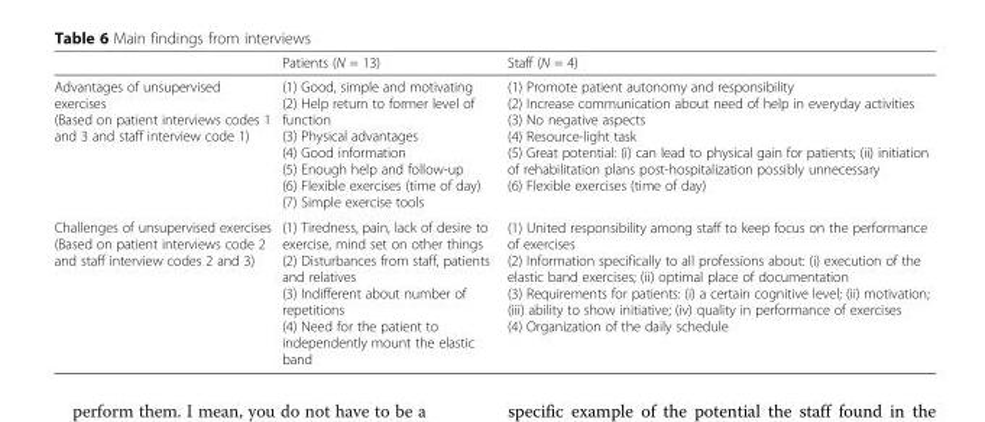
<table><thead><tr><td></td><td>Patients (N = 13)</td><td>Staff (N = 4)</td></tr></thead><tbody><tr><td>Advantages of unsupervised exercises (Based on patient interviews codes 1 and 3 and staff interview code 1)</td><td>(1) Good, simple and motivating (2) Help return to former level of function (3) Physical advantages (4) Good information (5) Enough help and follow-up (6) Flexible exercises (time of day) (7) Simple exercise tools</td><td>(1) Promote patient autonomy and responsibility (2) Increase communication about need of help in everyday activities (3) No negative aspects (4) Resource-light task (5) Great potential: (i) can lead to physical gain for patients; (ii) initiation of rehabilitation plans post-hospitalization possibly unnecessary (6) Flexible exercises (time of day)</td></tr><tr><td>Challenges of unsupervised exercises (Based on patient interviews code 2 and staff interview codes 2 and 3)</td><td>(1) Tiredness, pain, lack of desire to exercise, mind set on other things (2) Disturbances from staff, patients and relatives (3) Indifferent about number of repetitions (4) Need for the patient to independently mount the elastic band</td><td>(1) United responsibility among staff to keep focus on the performance of exercises (2) Information specifically to all professions about: (i) execution of the elastic band exercises; (ii) optimal place of documentation (3) Requirements for patients: (i) a certain cognitive level; (ii) motivation; (iii) ability to show initiative; (iv) quality in performance of exercises (4) Organization of the daily schedule</td></tr></tbody></table>